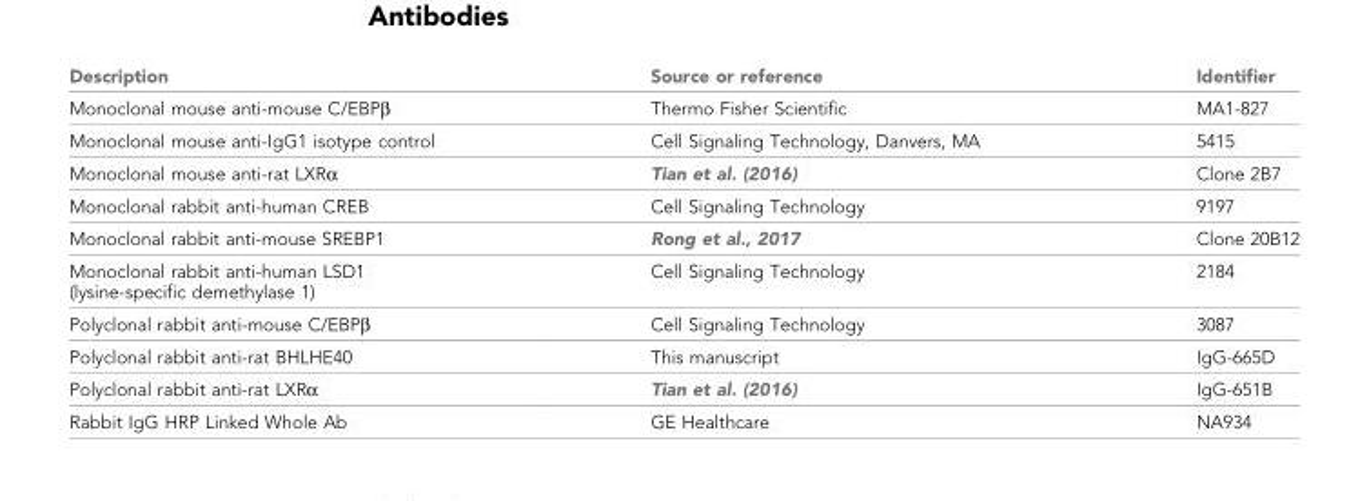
<table><thead><tr><td>Description</td><td>Source or reference</td><td>Identifier</td></tr></thead><tbody><tr><td>Monoclonal mouse anti-mouse C/EBPβ</td><td>Thermo Fisher Scientific</td><td>MA1-827</td></tr><tr><td>Monoclonal mouse anti-IgG1 isotype control</td><td>Cell Signaling Technology, Danvers, MA</td><td>5415</td></tr><tr><td>Monoclonal mouse anti-rat LXRα</td><td>Tian et al. (2016)</td><td>Clone 2B7</td></tr><tr><td>Monoclonal rabbit anti-human CREB</td><td>Cell Signaling Technology</td><td>9197</td></tr><tr><td>Monoclonal rabbit anti-mouse SREBP1</td><td>Rong et al., 2017</td><td>Clone 20B12</td></tr><tr><td>Monoclonal rabbit anti-human LSD1 (lysine-specific demethylase 1)</td><td>Cell Signaling Technology</td><td>2184</td></tr><tr><td>Polyclonal rabbit anti-mouse C/EBPβ</td><td>Cell Signaling Technology</td><td>3087</td></tr><tr><td>Polyclonal rabbit anti-rat BHLHE40</td><td>This manuscript</td><td>IgG-665D</td></tr><tr><td>Polyclonal rabbit anti-rat LXRα</td><td>Tian et al. (2016)</td><td>IgG-651B</td></tr><tr><td>Rabbit IgG HRP Linked Whole Ab</td><td>GE Healthcare</td><td>NA934</td></tr></tbody></table>